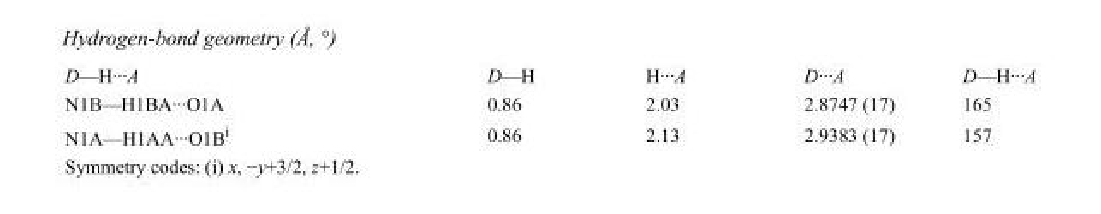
<table><tbody><tr><td>D—H···A</td><td>D—H</td><td>H···A</td><td>D···A</td><td>D—H···A</td></tr><tr><td>N1B—H1BA···O1A</td><td>0.86</td><td>2.03</td><td>2.8747 (17)</td><td>165</td></tr><tr><td>N1A—H1AA···O1B<sup>i</sup></td><td>0.86</td><td>2.13</td><td>2.9383 (17)</td><td>157</td></tr></tbody></table>